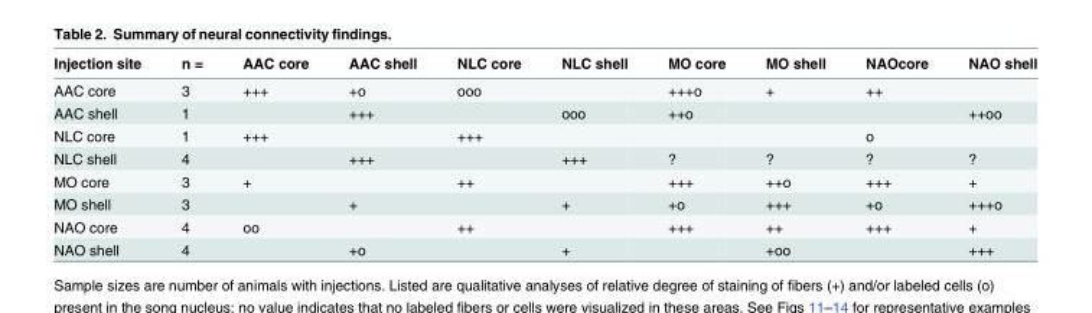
<table><thead><tr><td>Injection site</td><td>n =</td><td>AAC core</td><td>AAC shell</td><td>NLC core</td><td>NLC shell</td><td>MO core</td><td>MO shell</td><td>NAOcore</td><td>NAO shell</td></tr></thead><tbody><tr><td>AAC core</td><td>3</td><td>+++</td><td>+o</td><td>ooo</td><td></td><td>+++o</td><td>+</td><td>++</td><td></td></tr><tr><td>AAC shell</td><td>1</td><td></td><td>+++</td><td></td><td>ooo</td><td>++o</td><td></td><td></td><td>++oo</td></tr><tr><td>NLC core</td><td>1</td><td>+++</td><td></td><td>+++</td><td></td><td></td><td></td><td>o</td><td></td></tr><tr><td>NLC shell</td><td>4</td><td></td><td>+++</td><td></td><td>+++</td><td>?</td><td>?</td><td>?</td><td>?</td></tr><tr><td>MO core</td><td>3</td><td>+</td><td></td><td>++</td><td></td><td>+++</td><td>++o</td><td>+++</td><td>+</td></tr><tr><td>MO shell</td><td>3</td><td></td><td>+</td><td></td><td>+</td><td>+o</td><td>+++</td><td>+o</td><td>+++o</td></tr><tr><td>NAO core</td><td>4</td><td>oo</td><td></td><td>++</td><td></td><td>+++</td><td>++</td><td>+++</td><td>+</td></tr><tr><td>NAO shell</td><td>4</td><td></td><td>+o</td><td></td><td>+</td><td></td><td>+oo</td><td></td><td>+++</td></tr></tbody></table>